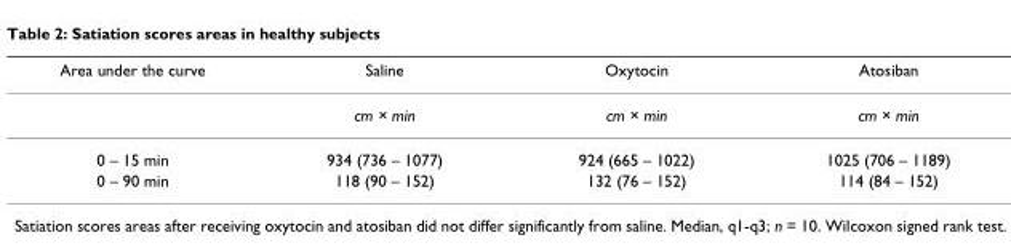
<table><thead><tr><td>Area under the curve</td><td>Saline</td><td>Oxytocin</td><td>Atosiban</td></tr></thead><tbody><tr><td></td><td>cm × min</td><td>cm × min</td><td>cm × min</td></tr><tr><td>0 – 15 min</td><td>934 (736 – 1077)</td><td>924 (665 – 1022)</td><td>1025 (706 – 1189)</td></tr><tr><td>0 – 90 min</td><td>118 (90 – 152)</td><td>132 (76 – 152)</td><td>114 (84 – 152)</td></tr></tbody></table>